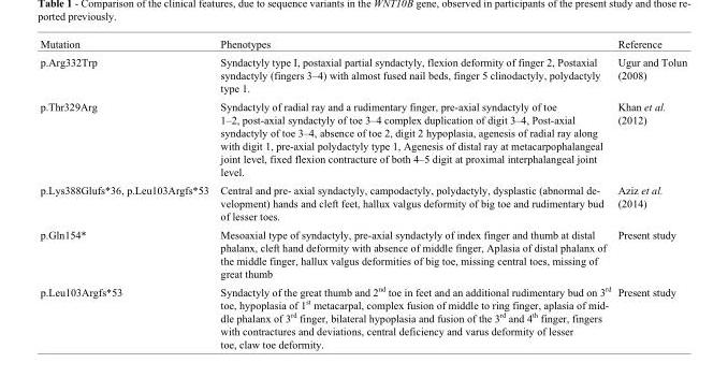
<table><thead><tr><td>Mutation</td><td>Phenotypes</td><td>Reference</td></tr></thead><tbody><tr><td>p.Arg332Trp</td><td>Syndactyly type I, postaxial partial syndactyly, flexion deformity of finger 2, Postaxial syndactyly (fingers 3–4) with almost fused nail beds, finger 5 clinodactyly, polydactyly type 1.</td><td>Ugur and Tolun (2008)</td></tr><tr><td>p.Thr329Arg</td><td>Syndactyly of radial ray and a rudimentary finger, pre-axial syndactyly of toe 1–2, post-axial syndactyly of toe 3–4 complex duplication of digit 3–4, Post-axial syndactyly of toe 3–4, absence of toe 2, digit 2 hypoplasia, agenesis of radial ray along with digit 1, pre-axial polydactyly type 1, Agenesis of distal ray at metacarpophalangeal joint level, fixed flexion contracture of both 4–5 digit at proximal interphalangeal joint level.</td><td>Khan et al. (2012)</td></tr><tr><td>p.Lys388Glufs*36, p.Leu103Argfs*53</td><td>Central and pre- axial syndactyly, campodactyly, polydactyly, dysplastic (abnormal de- velopment) hands and cleft feet, hallux valgus deformity of big toe and rudimentary bud of lesser toes.</td><td>Aziz et al. (2014)</td></tr><tr><td>p.Gln154*</td><td>Mesoaxial type of syndactyly, pre-axial syndactyly of index finger and thumb at distal phalanx, cleft hand deformity with absence of middle finger, Aplasia of distal phalanx of the middle finger, hallux valgus deformities of big toe, missing central toes, missing of great thumb</td><td>Present study</td></tr><tr><td>p.Leu103Argfs*53</td><td>Syndactyly of the great thumb and 2nd toe in feet and an additional rudimentary bud on 3rd toe, hypoplasia of 1st metacarpal, complex fusion of middle to ring finger, aplasia of mid- dle phalanx of 3rd finger, bilateral hypoplasia and fusion of the 3rd and 4th finger, fingers with contractures and deviations, central deficiency and varus deformity of lesser toe, claw toe deformity.</td><td>Present study</td></tr></tbody></table>